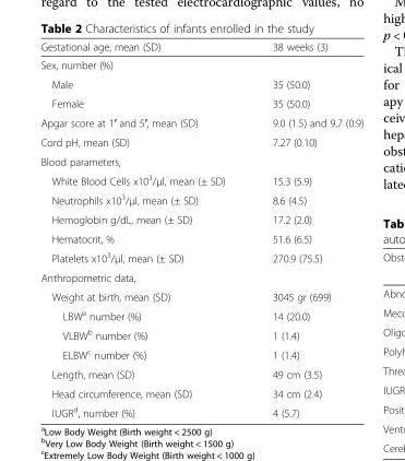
<table><thead><tr><td>Gestational age, mean (SD)</td><td>38 weeks (3)</td></tr></thead><tbody><tr><td colspan="2">Sex, number (%)</td></tr><tr><td>Male</td><td>35 (50.0)</td></tr><tr><td>Female</td><td>35 (50.0)</td></tr><tr><td>Apgar score at 1′ and 5′, mean (SD)</td><td>9.0 (1.5) and 9.7 (0.9)</td></tr><tr><td>Cord pH, mean (SD)</td><td>7.27 (0.10)</td></tr><tr><td colspan="2">Blood parameters,</td></tr><tr><td>White Blood Cells x10<sup>3</sup>/μl, mean (± SD)</td><td>15.3 (5.9)</td></tr><tr><td>Neutrophils x10<sup>3</sup>/μl, mean (± SD)</td><td>8.6 (4.5)</td></tr><tr><td>Hemoglobin g/dL, mean (± SD)</td><td>17.2 (2.0)</td></tr><tr><td>Hematocrit, %</td><td>51.6 (6.5)</td></tr><tr><td>Platelets x10<sup>3</sup>/μl, mean (± SD)</td><td>270.9 (75.5)</td></tr><tr><td colspan="2">Anthropometric data,</td></tr><tr><td>Weight at birth, mean (SD)</td><td>3045 gr (699)</td></tr><tr><td>LBW<sup>a</sup> number (%)</td><td>14 (20.0)</td></tr><tr><td>VLBW<sup>b</sup> number (%)</td><td>1 (1.4)</td></tr><tr><td>ELBW<sup>c</sup> number (%)</td><td>1 (1.4)</td></tr><tr><td>Length, mean (SD)</td><td>49 cm (3.5)</td></tr><tr><td>Head circumference, mean (SD)</td><td>34 cm (2.4)</td></tr><tr><td>IUGR<sup>d</sup>, number (%)</td><td>4 (5.7)</td></tr></tbody></table>